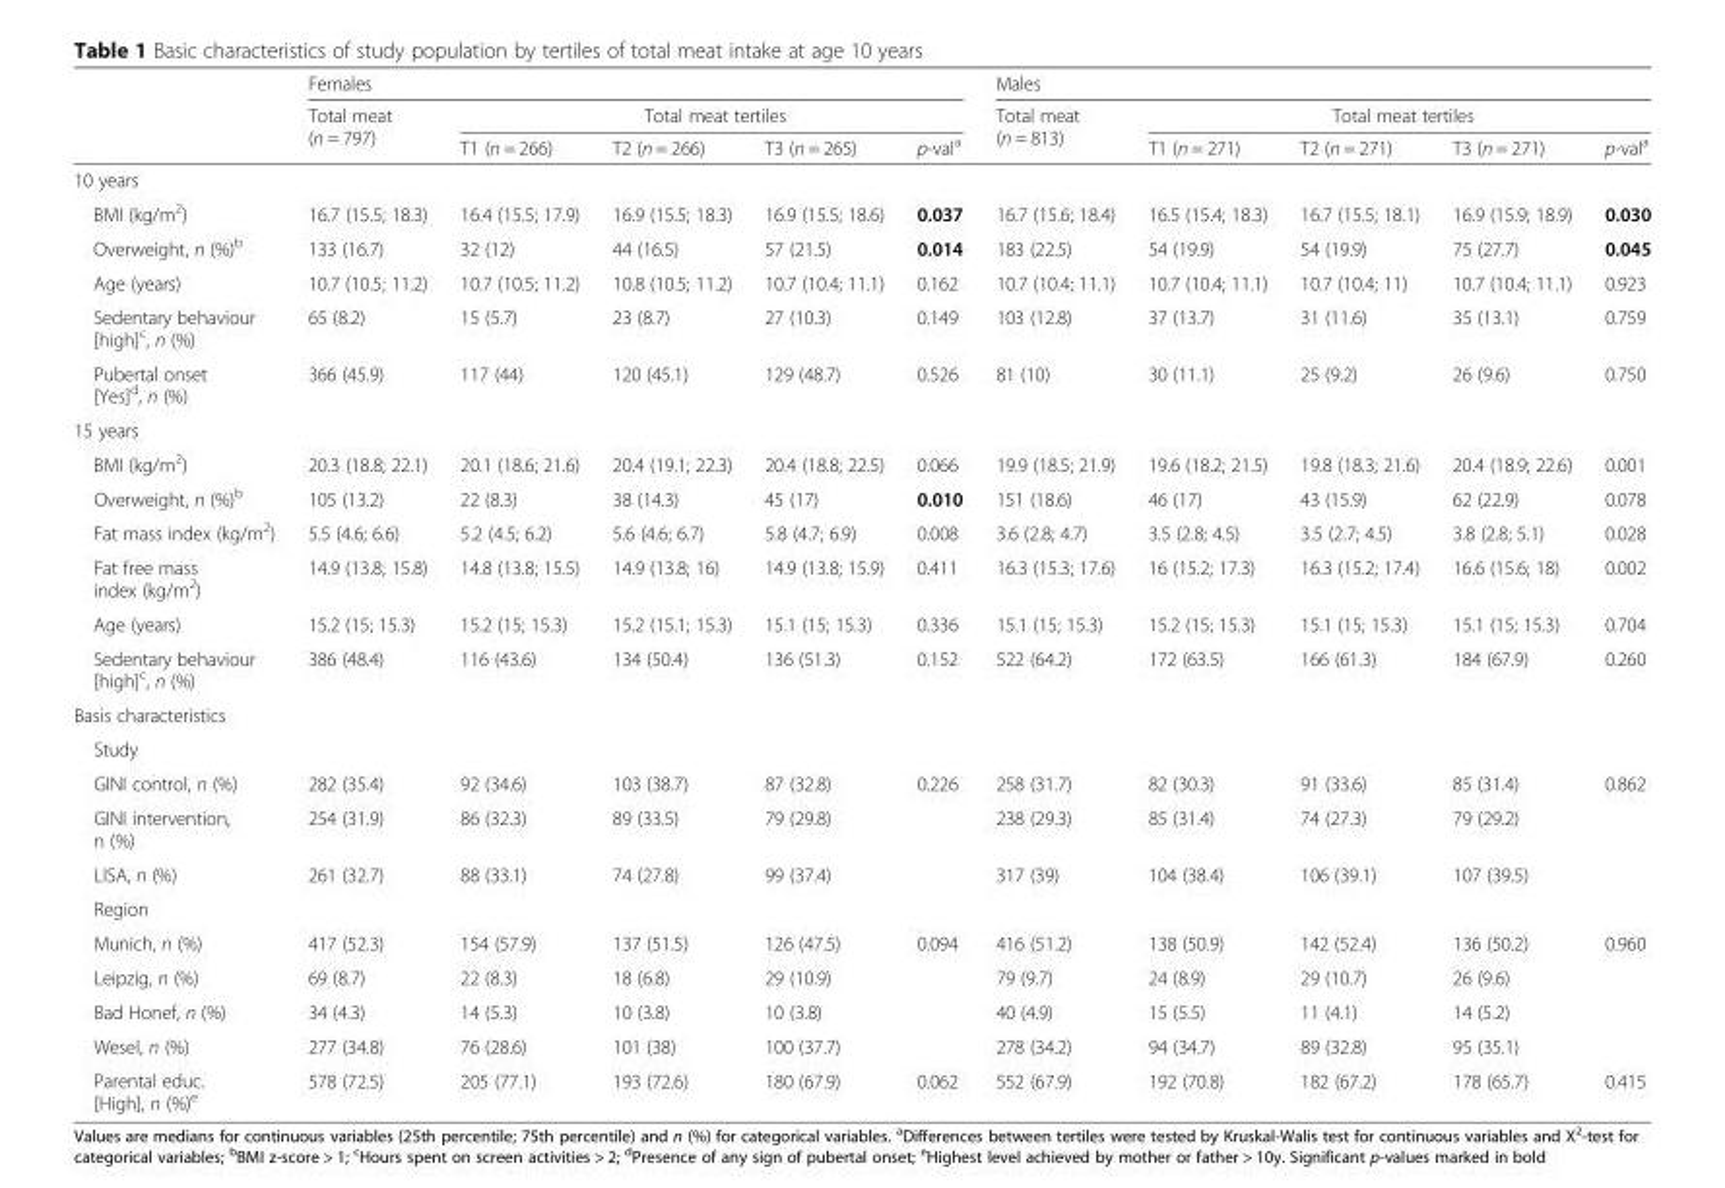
<table><thead><tr><td rowspan="3"></td><td colspan="5">Females</td><td colspan="5">Males</td></tr><tr><td rowspan="2">Total meat (n = 797)</td><td colspan="4">Total meat tertiles</td><td rowspan="2">Total meat (n = 813)</td><td colspan="4">Total meat tertiles</td></tr><tr><td>T1 (n = 266)</td><td>T2 (n = 266)</td><td>T3 (n = 265)</td><td>p-val<sup>a</sup></td><td>T1 (n = 271)</td><td>T2 (n = 271)</td><td>T3 (n = 271)</td><td>p-val<sup>a</sup></td></tr></thead><tbody><tr><td colspan="11">10 years</td></tr><tr><td>BMI (kg/m<sup>2</sup>)</td><td>16.7 (15.5; 18.3)</td><td>16.4 (15.5; 17.9)</td><td>16.9 (15.5; 18.3)</td><td>16.9 (15.5; 18.6)</td><td>0.037</td><td>16.7 (15.6; 18.4)</td><td>16.5 (15.4; 18.3)</td><td>16.7 (15.5; 18.1)</td><td>16.9 (15.9; 18.9)</td><td>0.030</td></tr><tr><td>Overweight, n (%)<sup>b</sup></td><td>133 (16.7)</td><td>32 (12)</td><td>44 (16.5)</td><td>57 (21.5)</td><td>0.014</td><td>183 (22.5)</td><td>54 (19.9)</td><td>54 (19.9)</td><td>75 (27.7)</td><td>0.045</td></tr><tr><td>Age (years)</td><td>10.7 (10.5; 11.2)</td><td>10.7 (10.5; 11.2)</td><td>10.8 (10.5; 11.2)</td><td>10.7 (10.4; 11.1)</td><td>0.162</td><td>10.7 (10.4; 11.1)</td><td>10.7 (10.4; 11.1)</td><td>10.7 (10.4; 11)</td><td>10.7 (10.4; 11.1)</td><td>0.923</td></tr><tr><td>Sedentary behaviour [high]<sup>c</sup>, n (%)</td><td>65 (8.2)</td><td>15 (5.7)</td><td>23 (8.7)</td><td>27 (10.3)</td><td>0.149</td><td>103 (12.8)</td><td>37 (13.7)</td><td>31 (11.6)</td><td>35 (13.1)</td><td>0.759</td></tr><tr><td>Pubertal onset [Yes]<sup>d</sup>, n (%)</td><td>366 (45.9)</td><td>117 (44)</td><td>120 (45.1)</td><td>129 (48.7)</td><td>0.526</td><td>81 (10)</td><td>30 (11.1)</td><td>25 (9.2)</td><td>26 (9.6)</td><td>0.750</td></tr><tr><td colspan="11">15 years</td></tr><tr><td>BMI (kg/m<sup>2</sup>)</td><td>20.3 (18.8; 22.1)</td><td>20.1 (18.6; 21.6)</td><td>20.4 (19.1; 22.3)</td><td>20.4 (18.8; 22.5)</td><td>0.066</td><td>19.9 (18.5; 21.9)</td><td>19.6 (18.2; 21.5)</td><td>19.8 (18.3; 21.6)</td><td>20.4 (18.9; 22.6)</td><td>0.001</td></tr><tr><td>Overweight, n (%)<sup>b</sup></td><td>105 (13.2)</td><td>22 (8.3)</td><td>38 (14.3)</td><td>45 (17)</td><td>0.010</td><td>151 (18.6)</td><td>46 (17)</td><td>43 (15.9)</td><td>62 (22.9)</td><td>0.078</td></tr><tr><td>Fat mass index (kg/m<sup>2</sup>)</td><td>5.5 (4.6; 6.6)</td><td>5.2 (4.5; 6.2)</td><td>5.6 (4.6; 6.7)</td><td>5.8 (4.7; 6.9)</td><td>0.008</td><td>3.6 (2.8; 4.7)</td><td>3.5 (2.8; 4.5)</td><td>3.5 (2.7; 4.5)</td><td>3.8 (2.8; 5.1)</td><td>0.028</td></tr><tr><td>Fat free mass index (kg/m<sup>2</sup>)</td><td>14.9 (13.8; 15.8)</td><td>14.8 (13.8; 15.5)</td><td>14.9 (13.8; 16)</td><td>14.9 (13.8; 15.9)</td><td>0.411</td><td>16.3 (15.3; 17.6)</td><td>16 (15.2; 17.3)</td><td>16.3 (15.2; 17.4)</td><td>16.6 (15.6; 18)</td><td>0.002</td></tr><tr><td>Age (years)</td><td>15.2 (15; 15.3)</td><td>15.2 (15; 15.3)</td><td>15.2 (15.1; 15.3)</td><td>15.1 (15; 15.3)</td><td>0.336</td><td>15.1 (15; 15.3)</td><td>15.2 (15; 15.3)</td><td>15.1 (15; 15.3)</td><td>15.1 (15; 15.3)</td><td>0.704</td></tr><tr><td>Sedentary behaviour [high]<sup>c</sup>, n (%)</td><td>386 (48.4)</td><td>116 (43.6)</td><td>134 (50.4)</td><td>136 (51.3)</td><td>0.152</td><td>522 (64.2)</td><td>172 (63.5)</td><td>166 (61.3)</td><td>184 (67.9)</td><td>0.260</td></tr><tr><td colspan="11">Basis characteristics</td></tr><tr><td colspan="11">Study</td></tr><tr><td>GINI control, n (%)</td><td>282 (35.4)</td><td>92 (34.6)</td><td>103 (38.7)</td><td>87 (32.8)</td><td>0.226</td><td>258 (31.7)</td><td>82 (30.3)</td><td>91 (33.6)</td><td>85 (31.4)</td><td>0.862</td></tr><tr><td>GINI intervention, n (%)</td><td>254 (31.9)</td><td>86 (32.3)</td><td>89 (33.5)</td><td>79 (29.8)</td><td></td><td>238 (29.3)</td><td>85 (31.4)</td><td>74 (27.3)</td><td>79 (29.2)</td><td></td></tr><tr><td>LISA, n (%)</td><td>261 (32.7)</td><td>88 (33.1)</td><td>74 (27.8)</td><td>99 (37.4)</td><td></td><td>317 (39)</td><td>104 (38.4)</td><td>106 (39.1)</td><td>107 (39.5)</td><td></td></tr><tr><td colspan="11">Region</td></tr><tr><td>Munich, n (%)</td><td>417 (52.3)</td><td>154 (57.9)</td><td>137 (51.5)</td><td>126 (47.5)</td><td>0.094</td><td>416 (51.2)</td><td>138 (50.9)</td><td>142 (52.4)</td><td>136 (50.2)</td><td>0.960</td></tr><tr><td>Leipzig, n (%)</td><td>69 (8.7)</td><td>22 (8.3)</td><td>18 (6.8)</td><td>29 (10.9)</td><td></td><td>79 (9.7)</td><td>24 (8.9)</td><td>29 (10.7)</td><td>26 (9.6)</td><td></td></tr><tr><td>Bad Honef, n (%)</td><td>34 (4.3)</td><td>14 (5.3)</td><td>10 (3.8)</td><td>10 (3.8)</td><td></td><td>40 (4.9)</td><td>15 (5.5)</td><td>11 (4.1)</td><td>14 (5.2)</td><td></td></tr><tr><td>Wesel, n (%)</td><td>277 (34.8)</td><td>76 (28.6)</td><td>101 (38)</td><td>100 (37.7)</td><td></td><td>278 (34.2)</td><td>94 (34.7)</td><td>89 (32.8)</td><td>95 (35.1)</td><td></td></tr><tr><td>Parental educ. [High], n (%)<sup>e</sup></td><td>578 (72.5)</td><td>205 (77.1)</td><td>193 (72.6)</td><td>180 (67.9)</td><td>0.062</td><td>552 (67.9)</td><td>192 (70.8)</td><td>182 (67.2)</td><td>178 (65.7)</td><td>0.415</td></tr></tbody></table>